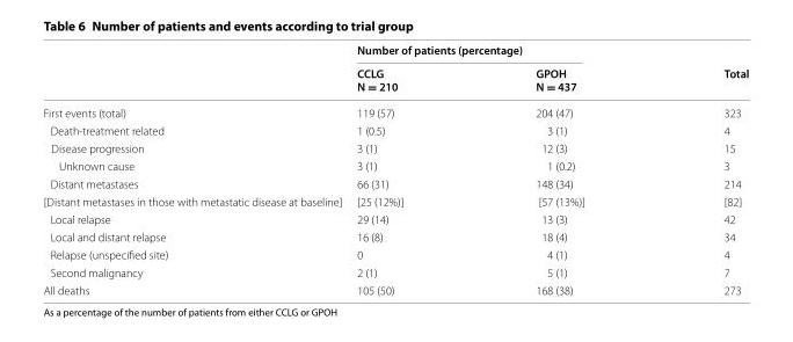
<table><thead><tr><td rowspan="2"></td><td colspan="2">Number of patients (percentage)</td><td rowspan="2">Total</td></tr><tr><td>CCLG N = 210</td><td>GPOH N = 437</td></tr></thead><tbody><tr><td>First events (total)</td><td>119 (57)</td><td>204 (47)</td><td>323</td></tr><tr><td>Death-treatment related</td><td>1 (0.5)</td><td>3 (1)</td><td>4</td></tr><tr><td>Disease progression</td><td>3 (1)</td><td>12 (3)</td><td>15</td></tr><tr><td>Unknown cause</td><td>3 (1)</td><td>1 (0.2)</td><td>3</td></tr><tr><td>Distant metastases</td><td>66 (31)</td><td>148 (34)</td><td>214</td></tr><tr><td>[Distant metastases in those with metastatic disease at baseline]</td><td>[25 (12%)]</td><td>[57 (13%)]</td><td>[82]</td></tr><tr><td>Local relapse</td><td>29 (14)</td><td>13 (3)</td><td>42</td></tr><tr><td>Local and distant relapse</td><td>16 (8)</td><td>18 (4)</td><td>34</td></tr><tr><td>Relapse (unspecified site)</td><td>0</td><td>4 (1)</td><td>4</td></tr><tr><td>Second malignancy</td><td>2 (1)</td><td>5 (1)</td><td>7</td></tr><tr><td>All deaths</td><td>105 (50)</td><td>168 (38)</td><td>273</td></tr></tbody></table>